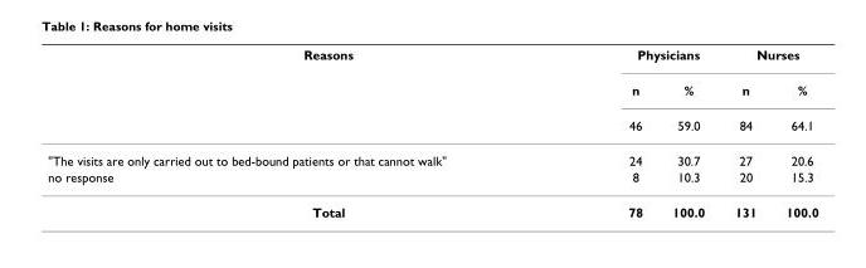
<table><thead><tr><td rowspan="3">Reasons</td><td colspan="2">Physicians</td><td colspan="2">Nurses</td></tr><tr><td rowspan="2">n 46</td><td rowspan="2">% 59.0</td><td rowspan="2">n 84</td><td rowspan="2">% 64.1</td></tr><tr></tr></thead><tbody><tr><td>&quot;The visits are only carried out to bed-bound patients or that cannot walk&quot;</td><td>24</td><td>30.7</td><td>27</td><td>20.6</td></tr><tr><td>no response</td><td>8</td><td>10.3</td><td>20</td><td>15.3</td></tr><tr><td>Total</td><td>78</td><td>100.0</td><td>131</td><td>100.0</td></tr></tbody></table>